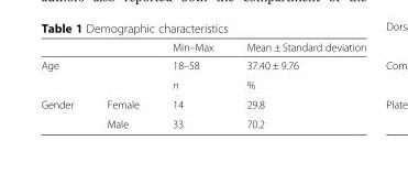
<table><thead><tr><td></td><td></td><td>Min–Max</td><td>Mean ± Standard deviation</td></tr></thead><tbody><tr><td rowspan="2">Age</td><td></td><td>18–58</td><td>37.40 ± 9.76</td></tr><tr><td></td><td>n</td><td>%</td></tr><tr><td rowspan="2">Gender</td><td>Female</td><td>14</td><td>29.8</td></tr><tr><td>Male</td><td>33</td><td>70.2</td></tr></tbody></table>